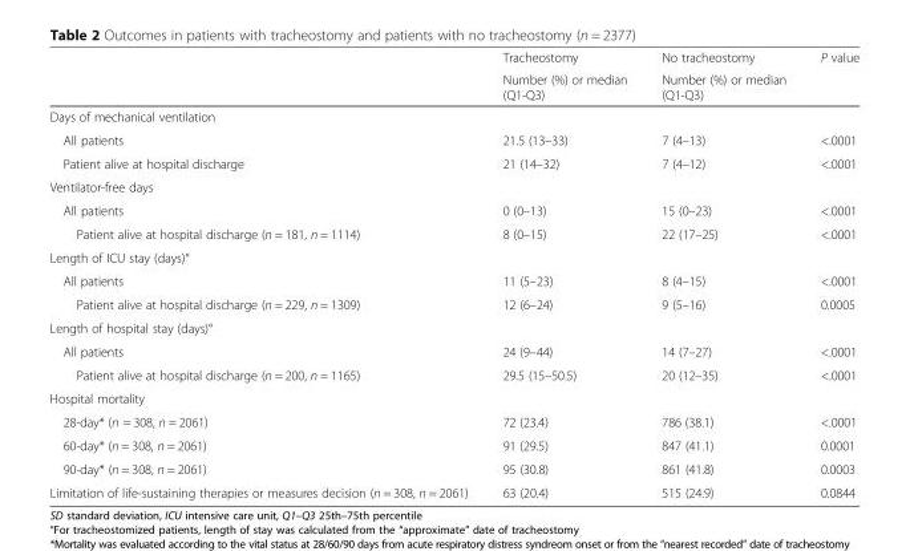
<table><thead><tr><td rowspan="2"></td><td rowspan="2">Tracheostomy Number (%) or median (Q1-Q3)</td><td rowspan="2">No tracheostomy Number (%) or median (Q1-Q3)</td><td rowspan="2">P value</td></tr><tr></tr></thead><tbody><tr><td colspan="4">Days of mechanical ventilation</td></tr><tr><td>All patients</td><td>21.5 (13–33)</td><td>7 (4–13)</td><td>&lt;.0001</td></tr><tr><td>Patient alive at hospital discharge</td><td>21 (14–32)</td><td>7 (4–12)</td><td>&lt;.0001</td></tr><tr><td colspan="4">Ventilator-free days</td></tr><tr><td>All patients</td><td>0 (0–13)</td><td>15 (0–23)</td><td>&lt;.0001</td></tr><tr><td>Patient alive at hospital discharge (n = 181, n = 1114)</td><td>8 (0–15)</td><td>22 (17–25)</td><td>&lt;.0001</td></tr><tr><td colspan="4">Length of ICU stay (days)°</td></tr><tr><td>All patients</td><td>11 (5–23)</td><td>8 (4–15)</td><td>&lt;.0001</td></tr><tr><td>Patient alive at hospital discharge (n = 229, n = 1309)</td><td>12 (6–24)</td><td>9 (5–16)</td><td>0.0005</td></tr><tr><td colspan="4">Length of hospital stay (days)°</td></tr><tr><td>All patients</td><td>24 (9–44)</td><td>14 (7–27)</td><td>&lt;.0001</td></tr><tr><td>Patient alive at hospital discharge (n = 200, n = 1165)</td><td>29.5 (15–50.5)</td><td>20 (12–35)</td><td>&lt;.0001</td></tr><tr><td colspan="4">Hospital mortality</td></tr><tr><td>28-day* (n = 308, n = 2061)</td><td>72 (23.4)</td><td>786 (38.1)</td><td>&lt;.0001</td></tr><tr><td>60-day* (n = 308, n = 2061)</td><td>91 (29.5)</td><td>847 (41.1)</td><td>0.0001</td></tr><tr><td>90-day* (n = 308, n = 2061)</td><td>95 (30.8)</td><td>861 (41.8)</td><td>0.0003</td></tr><tr><td>Limitation of life-sustaining therapies or measures decision (n = 308, n = 2061)</td><td>63 (20.4)</td><td>515 (24.9)</td><td>0.0844</td></tr></tbody></table>